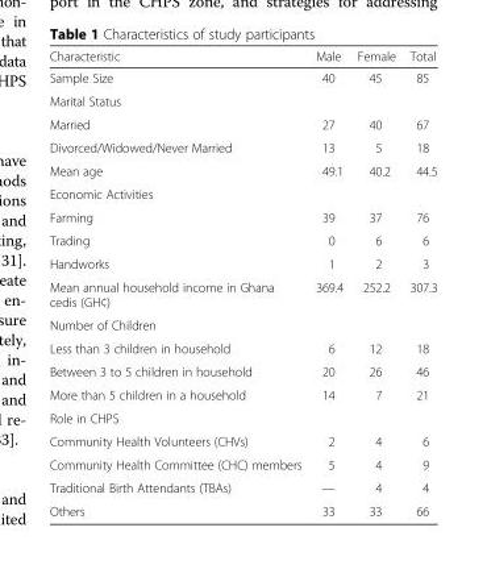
<table><thead><tr><td>Characteristic</td><td>Male</td><td>Female</td><td>Total</td></tr></thead><tbody><tr><td>Sample Size</td><td>40</td><td>45</td><td>85</td></tr><tr><td colspan="4">Marital Status</td></tr><tr><td>Married</td><td>27</td><td>40</td><td>67</td></tr><tr><td>Divorced/Widowed/Never Married</td><td>13</td><td>5</td><td>18</td></tr><tr><td>Mean age</td><td>49.1</td><td>40.2</td><td>44.5</td></tr><tr><td colspan="4">Economic Activities</td></tr><tr><td>Farming</td><td>39</td><td>37</td><td>76</td></tr><tr><td>Trading</td><td>0</td><td>6</td><td>6</td></tr><tr><td>Handworks</td><td>1</td><td>2</td><td>3</td></tr><tr><td>Mean annual household income in Ghana cedis (GH¢)</td><td>369.4</td><td>252.2</td><td>307.3</td></tr><tr><td colspan="4">Number of Children</td></tr><tr><td>Less than 3 children in household</td><td>6</td><td>12</td><td>18</td></tr><tr><td>Between 3 to 5 children in household</td><td>20</td><td>26</td><td>46</td></tr><tr><td>More than 5 children in a household</td><td>14</td><td>7</td><td>21</td></tr><tr><td colspan="4">Role in CHPS</td></tr><tr><td>Community Health Volunteers (CHVs)</td><td>2</td><td>4</td><td>6</td></tr><tr><td>Community Health Committee (CHC) members</td><td>5</td><td>4</td><td>9</td></tr><tr><td>Traditional Birth Attendants (TBAs)</td><td>—</td><td>4</td><td>4</td></tr><tr><td>Others</td><td>33</td><td>33</td><td>66</td></tr></tbody></table>